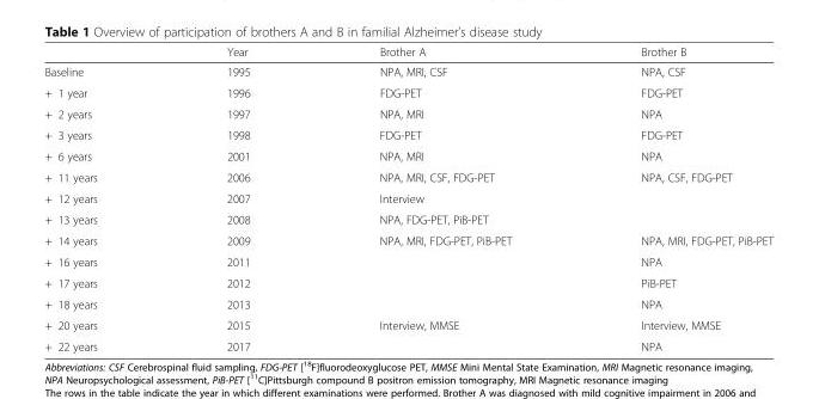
<table><thead><tr><td></td><td>Year</td><td>Brother A</td><td>Brother B</td></tr></thead><tbody><tr><td>Baseline</td><td>1995</td><td>NPA, MRI, CSF</td><td>NPA, CSF</td></tr><tr><td>+ 1 year</td><td>1996</td><td>FDG-PET</td><td>FDG-PET</td></tr><tr><td>+ 2 years</td><td>1997</td><td>NPA, MRI</td><td>NPA</td></tr><tr><td>+ 3 years</td><td>1998</td><td>FDG-PET</td><td>FDG-PET</td></tr><tr><td>+ 6 years</td><td>2001</td><td>NPA, MRI</td><td>NPA</td></tr><tr><td>+ 11 years</td><td>2006</td><td>NPA, MRI, CSF, FDG-PET</td><td>NPA, CSF, FDG-PET</td></tr><tr><td>+ 12 years</td><td>2007</td><td>Interview</td><td></td></tr><tr><td>+ 13 years</td><td>2008</td><td>NPA, FDG-PET, PiB-PET</td><td></td></tr><tr><td>+ 14 years</td><td>2009</td><td>NPA, MRI, FDG-PET, PiB-PET</td><td>NPA, MRI, FDG-PET, PiB-PET</td></tr><tr><td>+ 16 years</td><td>2011</td><td></td><td>NPA</td></tr><tr><td>+ 17 years</td><td>2012</td><td></td><td>PiB-PET</td></tr><tr><td>+ 18 years</td><td>2013</td><td></td><td>NPA</td></tr><tr><td>+ 20 years</td><td>2015</td><td>Interview, MMSE</td><td>Interview, MMSE</td></tr><tr><td>+ 22 years</td><td>2017</td><td></td><td>NPA</td></tr></tbody></table>